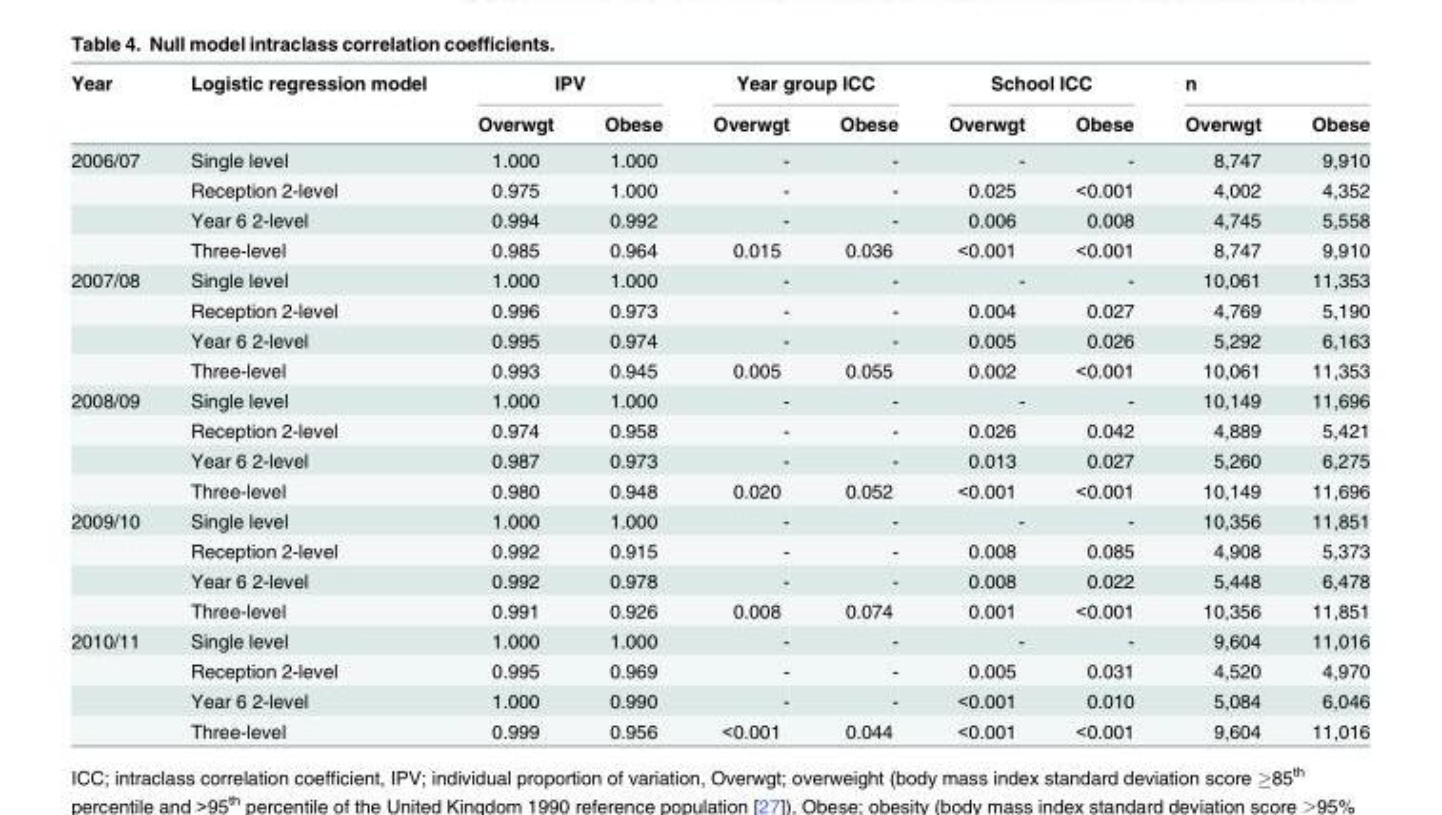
<table><thead><tr><td rowspan="2">Year</td><td rowspan="2">Logistic regression model</td><td colspan="2">IPV</td><td colspan="2">Year group ICC</td><td colspan="2">School ICC</td><td colspan="2">n</td></tr><tr><td>Overwgt</td><td>Obese</td><td>Overwgt</td><td>Obese</td><td>Overwgt</td><td>Obese</td><td>Overwgt</td><td>Obese</td></tr></thead><tbody><tr><td rowspan="4">2006/07</td><td>Single level</td><td>1.000</td><td>1.000</td><td>-</td><td>-</td><td>-</td><td>-</td><td>8,747</td><td>9,910</td></tr><tr><td>Reception 2-level</td><td>0.975</td><td>1.000</td><td>-</td><td>-</td><td>0.025</td><td>&lt;0.001</td><td>4,002</td><td>4,352</td></tr><tr><td>Year 6 2-level</td><td>0.994</td><td>0.992</td><td>-</td><td>-</td><td>0.006</td><td>0.008</td><td>4,745</td><td>5,558</td></tr><tr><td>Three-level</td><td>0.985</td><td>0.964</td><td>0.015</td><td>0.036</td><td>&lt;0.001</td><td>&lt;0.001</td><td>8,747</td><td>9,910</td></tr><tr><td rowspan="4">2007/08</td><td>Single level</td><td>1.000</td><td>1.000</td><td>-</td><td>-</td><td>-</td><td>-</td><td>10,061</td><td>11,353</td></tr><tr><td>Reception 2-level</td><td>0.996</td><td>0.973</td><td>-</td><td>-</td><td>0.004</td><td>0.027</td><td>4,769</td><td>5,190</td></tr><tr><td>Year 6 2-level</td><td>0.995</td><td>0.974</td><td>-</td><td>-</td><td>0.005</td><td>0.026</td><td>5,292</td><td>6,163</td></tr><tr><td>Three-level</td><td>0.993</td><td>0.945</td><td>0.005</td><td>0.055</td><td>0.002</td><td>&lt;0.001</td><td>10,061</td><td>11,353</td></tr><tr><td rowspan="4">2008/09</td><td>Single level</td><td>1.000</td><td>1.000</td><td>-</td><td>-</td><td>-</td><td>-</td><td>10,149</td><td>11,696</td></tr><tr><td>Reception 2-level</td><td>0.974</td><td>0.958</td><td>-</td><td>-</td><td>0.026</td><td>0.042</td><td>4,889</td><td>5,421</td></tr><tr><td>Year 6 2-level</td><td>0.987</td><td>0.973</td><td>-</td><td>-</td><td>0.013</td><td>0.027</td><td>5,260</td><td>6,275</td></tr><tr><td>Three-level</td><td>0.980</td><td>0.948</td><td>0.020</td><td>0.052</td><td>&lt;0.001</td><td>&lt;0.001</td><td>10,149</td><td>11,696</td></tr><tr><td rowspan="4">2009/10</td><td>Single level</td><td>1.000</td><td>1.000</td><td>-</td><td>-</td><td>-</td><td>-</td><td>10,356</td><td>11,851</td></tr><tr><td>Reception 2-level</td><td>0.992</td><td>0.915</td><td>-</td><td>-</td><td>0.008</td><td>0.085</td><td>4,908</td><td>5,373</td></tr><tr><td>Year 6 2-level</td><td>0.992</td><td>0.978</td><td>-</td><td>-</td><td>0.008</td><td>0.022</td><td>5,448</td><td>6,478</td></tr><tr><td>Three-level</td><td>0.991</td><td>0.926</td><td>0.008</td><td>0.074</td><td>0.001</td><td>&lt;0.001</td><td>10,356</td><td>11,851</td></tr><tr><td rowspan="4">2010/11</td><td>Single level</td><td>1.000</td><td>1.000</td><td>-</td><td>-</td><td>-</td><td>-</td><td>9,604</td><td>11,016</td></tr><tr><td>Reception 2-level</td><td>0.995</td><td>0.969</td><td>-</td><td>-</td><td>0.005</td><td>0.031</td><td>4,520</td><td>4,970</td></tr><tr><td>Year 6 2-level</td><td>1.000</td><td>0.990</td><td>-</td><td>-</td><td>&lt;0.001</td><td>0.010</td><td>5,084</td><td>6,046</td></tr><tr><td>Three-level</td><td>0.999</td><td>0.956</td><td>&lt;0.001</td><td>0.044</td><td>&lt;0.001</td><td>&lt;0.001</td><td>9,604</td><td>11,016</td></tr></tbody></table>